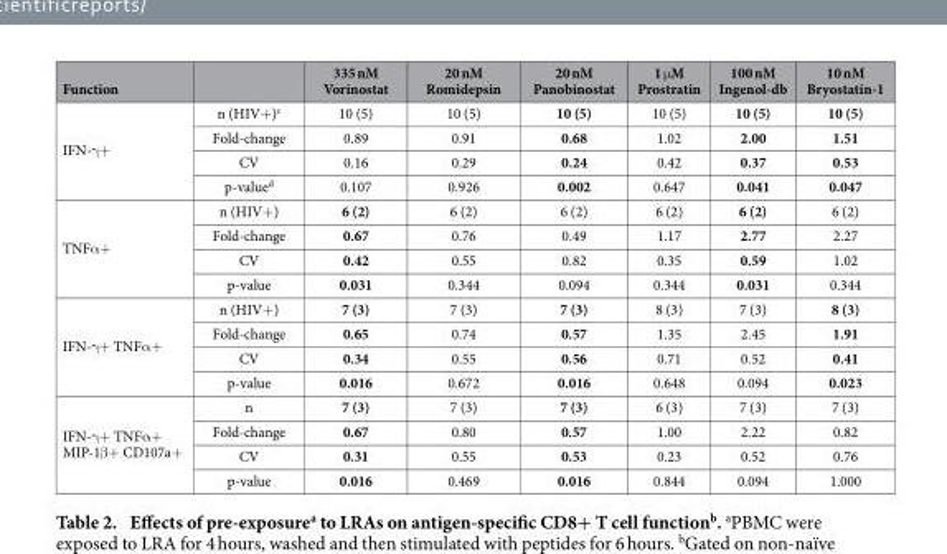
<table><thead><tr><td>Function</td><td></td><td>335 nM Vorinostat</td><td>20 nM Romidepsin</td><td>20 nM Panobinostat</td><td>1 μ M Prostratin</td><td>100 nM Ingenol-db</td><td>10 nM Bryostatin-1</td></tr></thead><tbody><tr><td rowspan="4">IFN-γ +</td><td>n (HIV+ )<sup>c</sup></td><td>10 (5)</td><td>10 (5)</td><td>10 (5)</td><td>10 (5)</td><td>10 (5)</td><td>10 (5)</td></tr><tr><td>Fold-change</td><td>0.89</td><td>0.91</td><td>0.68</td><td>1.02</td><td>2.00</td><td>1.51</td></tr><tr><td>CV</td><td>0.16</td><td>0.29</td><td>0.24</td><td>0.42</td><td>0.37</td><td>0.53</td></tr><tr><td>p-value<sup>d</sup></td><td>0.107</td><td>0.926</td><td>0.002</td><td>0.647</td><td>0.041</td><td>0.047</td></tr><tr><td rowspan="4">TNFα +</td><td>n (HIV+ )</td><td>6 (2)</td><td>6 (2)</td><td>6 (2)</td><td>6 (2)</td><td>6 (2)</td><td>6 (2)</td></tr><tr><td>Fold-change</td><td>0.67</td><td>0.76</td><td>0.49</td><td>1.17</td><td>2.77</td><td>2.27</td></tr><tr><td>CV</td><td>0.42</td><td>0.55</td><td>0.82</td><td>0.35</td><td>0.59</td><td>1.02</td></tr><tr><td>p-value</td><td>0.031</td><td>0.344</td><td>0.094</td><td>0.344</td><td>0.031</td><td>0.344</td></tr><tr><td rowspan="4">IFN-γ + TNFα +</td><td>n (HIV+ )</td><td>7 (3)</td><td>7 (3)</td><td>7 (3)</td><td>8 (3)</td><td>7 (3)</td><td>8 (3)</td></tr><tr><td>Fold-change</td><td>0.65</td><td>0.74</td><td>0.57</td><td>1.35</td><td>2.45</td><td>1.91</td></tr><tr><td>CV</td><td>0.34</td><td>0.55</td><td>0.56</td><td>0.71</td><td>0.52</td><td>0.41</td></tr><tr><td>p-value</td><td>0.016</td><td>0.672</td><td>0.016</td><td>0.648</td><td>0.094</td><td>0.023</td></tr><tr><td rowspan="4">IFN-γ + TNFα + MIP-1β + CD107a+</td><td>n</td><td>7 (3)</td><td>7 (3)</td><td>7 (3)</td><td>6 (3)</td><td>7 (3)</td><td>7 (3)</td></tr><tr><td>Fold-change</td><td>0.67</td><td>0.80</td><td>0.57</td><td>1.00</td><td>2.22</td><td>0.82</td></tr><tr><td>CV</td><td>0.31</td><td>0.55</td><td>0.53</td><td>0.23</td><td>0.52</td><td>0.76</td></tr><tr><td>p-value</td><td>0.016</td><td>0.469</td><td>0.016</td><td>0.844</td><td>0.094</td><td>1.000</td></tr></tbody></table>